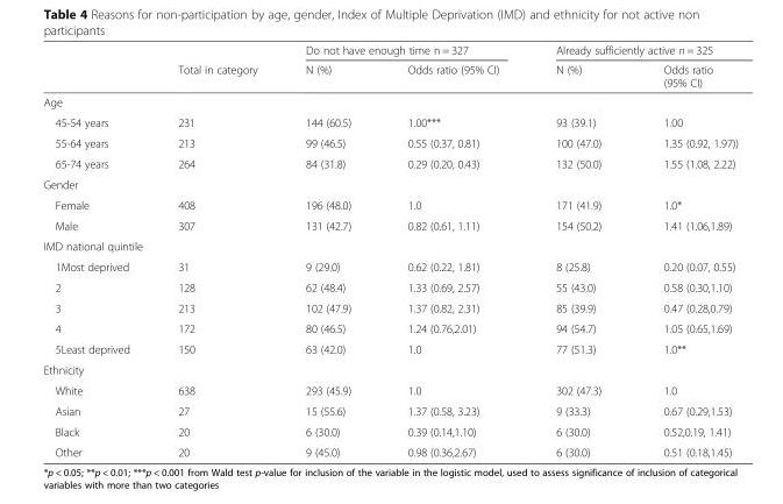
<table><thead><tr><td rowspan="2"></td><td rowspan="2">Total in category</td><td colspan="2">Do not have enough time n = 327</td><td colspan="2">Already sufficiently active n = 325</td></tr><tr><td>N (%)</td><td>Odds ratio (95% CI)</td><td>N (%)</td><td>Odds ratio (95% CI)</td></tr></thead><tbody><tr><td colspan="6">Age</td></tr><tr><td>45-54 years</td><td>231</td><td>144 (60.5)</td><td>1.00***</td><td>93 (39.1)</td><td>1.00</td></tr><tr><td>55-64 years</td><td>213</td><td>99 (46.5)</td><td>0.55 (0.37, 0.81)</td><td>100 (47.0)</td><td>1.35 (0.92, 1.97))</td></tr><tr><td>65-74 years</td><td>264</td><td>84 (31.8)</td><td>0.29 (0.20, 0.43)</td><td>132 (50.0)</td><td>1.55 (1.08, 2.22)</td></tr><tr><td colspan="6">Gender</td></tr><tr><td>Female</td><td>408</td><td>196 (48.0)</td><td>1.0</td><td>171 (41.9)</td><td>1.0*</td></tr><tr><td>Male</td><td>307</td><td>131 (42.7)</td><td>0.82 (0.61, 1.11)</td><td>154 (50.2)</td><td>1.41 (1.06,1.89)</td></tr><tr><td colspan="6">IMD national quintile</td></tr><tr><td>1Most deprived</td><td>31</td><td>9 (29.0)</td><td>0.62 (0.22, 1.81)</td><td>8 (25.8)</td><td>0.20 (0.07, 0.55)</td></tr><tr><td>2</td><td>128</td><td>62 (48.4)</td><td>1.33 (0.69, 2.57)</td><td>55 (43.0)</td><td>0.58 (0.30,1.10)</td></tr><tr><td>3</td><td>213</td><td>102 (47.9)</td><td>1.37 (0.82, 2.31)</td><td>85 (39.9)</td><td>0.47 (0.28,0.79)</td></tr><tr><td>4</td><td>172</td><td>80 (46.5)</td><td>1.24 (0.76,2.01)</td><td>94 (54.7)</td><td>1.05 (0.65,1.69)</td></tr><tr><td>5Least deprived</td><td>150</td><td>63 (42.0)</td><td>1.0</td><td>77 (51.3)</td><td>1.0**</td></tr><tr><td colspan="6">Ethnicity</td></tr><tr><td>White</td><td>638</td><td>293 (45.9)</td><td>1.0</td><td>302 (47.3)</td><td>1.0</td></tr><tr><td>Asian</td><td>27</td><td>15 (55.6)</td><td>1.37 (0.58, 3.23)</td><td>9 (33.3)</td><td>0.67 (0.29,1.53)</td></tr><tr><td>Black</td><td>20</td><td>6 (30.0)</td><td>0.39 (0.14,1.10)</td><td>6 (30.0)</td><td>0.52,0.19, 1.41)</td></tr><tr><td>Other</td><td>20</td><td>9 (45.0)</td><td>0.98 (0.36,2.67)</td><td>6 (30.0)</td><td>0.51 (0.18,1.45)</td></tr></tbody></table>